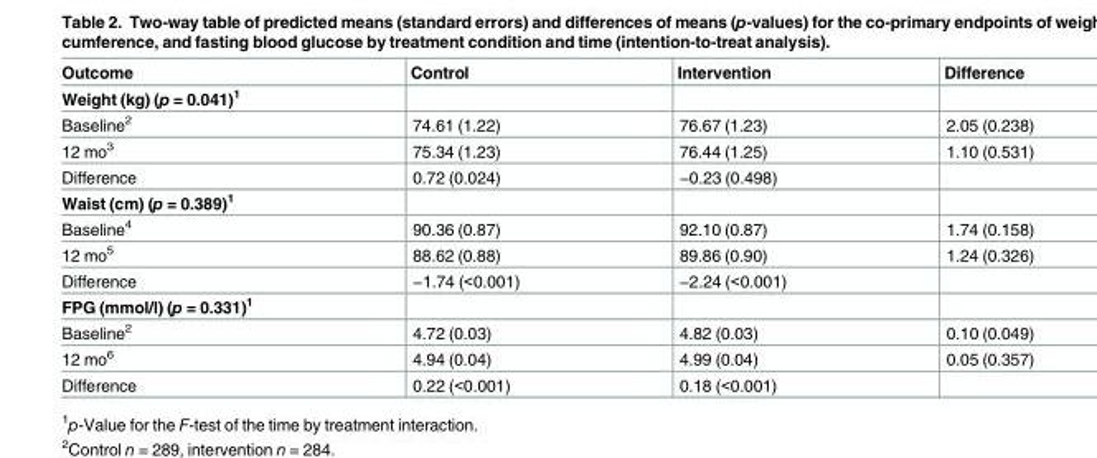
<table><thead><tr><td>Outcome</td><td>Control</td><td>Intervention</td><td>Difference</td></tr></thead><tbody><tr><td colspan="4">Weight (kg) (p = 0.041)<sup>1</sup></td></tr><tr><td>Baseline<sup>2</sup></td><td>74.61 (1.22)</td><td>76.67 (1.23)</td><td>2.05 (0.238)</td></tr><tr><td>12 mo<sup>3</sup></td><td>75.34 (1.23)</td><td>76.44 (1.25)</td><td>1.10 (0.531)</td></tr><tr><td>Difference</td><td>0.72 (0.024)</td><td>−0.23 (0.498)</td><td></td></tr><tr><td colspan="4">Waist (cm) (p = 0.389)<sup>1</sup></td></tr><tr><td>Baseline<sup>4</sup></td><td>90.36 (0.87)</td><td>92.10 (0.87)</td><td>1.74 (0.158)</td></tr><tr><td>12 mo<sup>5</sup></td><td>88.62 (0.88)</td><td>89.86 (0.90)</td><td>1.24 (0.326)</td></tr><tr><td>Difference</td><td>−1.74 (&lt;0.001)</td><td>−2.24 (&lt;0.001)</td><td></td></tr><tr><td colspan="4">FPG (mmol/l) (p = 0.331)<sup>1</sup></td></tr><tr><td>Baseline<sup>2</sup></td><td>4.72 (0.03)</td><td>4.82 (0.03)</td><td>0.10 (0.049)</td></tr><tr><td>12 mo<sup>6</sup></td><td>4.94 (0.04)</td><td>4.99 (0.04)</td><td>0.05 (0.357)</td></tr><tr><td>Difference</td><td>0.22 (&lt;0.001)</td><td>0.18 (&lt;0.001)</td><td></td></tr></tbody></table>